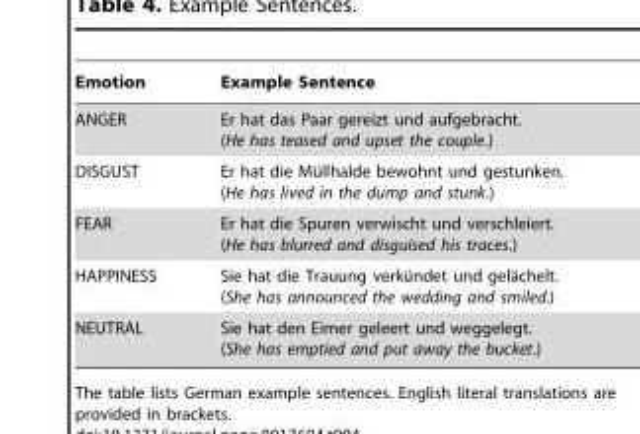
<table><thead><tr><td>Emotion</td><td>Example Sentence</td></tr></thead><tbody><tr><td>ANGER</td><td>Er hat das Paar gereizt und aufgebracht. (He has teased and upset the couple.)</td></tr><tr><td>DISGUST</td><td>Er hat die Mu¨llhalde bewohnt und gestunken. (He has lived in the dump and stunk.)</td></tr><tr><td>FEAR</td><td>Er hat die Spuren verwischt und verschleiert. (He has blurred and disguised his traces.)</td></tr><tr><td>HAPPINESS</td><td>Sie hat die Trauung verku¨ndet und gela¨chelt. (She has announced the wedding and smiled.)</td></tr><tr><td>NEUTRAL</td><td>Sie hat den Eimer geleert und weggelegt. (She has emptied and put away the bucket.)</td></tr></tbody></table>